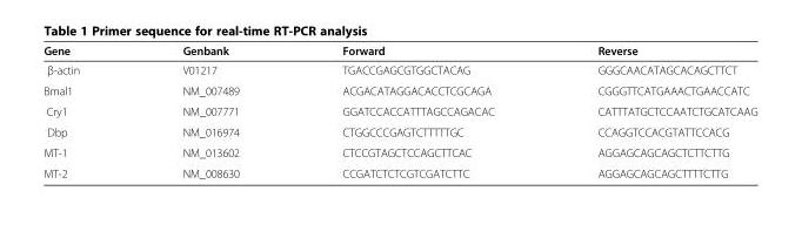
<table><thead><tr><td>Gene</td><td>Genbank</td><td>Forward</td><td>Reverse</td></tr></thead><tbody><tr><td>β-actin</td><td>V01217</td><td>TGACCGAGCGTGGCTACAG</td><td>GGGCAACATAGCACAGCTTCT</td></tr><tr><td>Bmal1</td><td>NM_007489</td><td>ACGACATAGGACACCTCGCAGA</td><td>CGGGTTCATGAAACTGAACCATC</td></tr><tr><td>Cry1</td><td>NM_007771</td><td>GGATCCACCATTTAGCCAGACAC</td><td>CATTTATGCTCCAATCTGCATCAAG</td></tr><tr><td>Dbp</td><td>NM_016974</td><td>CTGGCCCGAGTCTTTTTGC</td><td>CCAGGTCCACGTATTCCACG</td></tr><tr><td>MT-1</td><td>NM_013602</td><td>CTCCGTAGCTCCAGCTTCAC</td><td>AGGAGCAGCAGCTCTTCTTG</td></tr><tr><td>MT-2</td><td>NM_008630</td><td>CCGATCTCTCGTCGATCTTC</td><td>AGGAGCAGCAGCTTTTCTTG</td></tr></tbody></table>